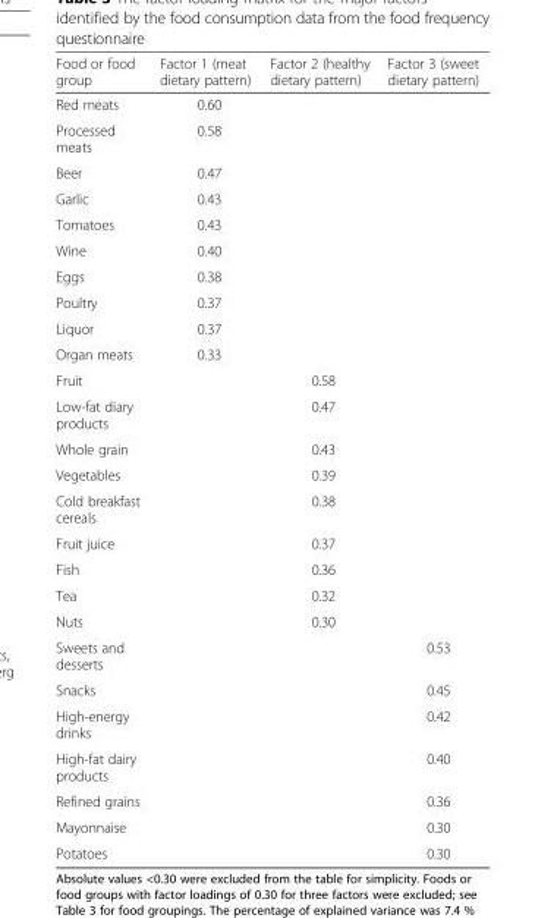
<table><thead><tr><td>Food or food group</td><td>Factor 1 (meat dietary pattern)</td><td>Factor 2 (healthy dietary pattern)</td><td>Factor 3 (sweet dietary pattern)</td></tr></thead><tbody><tr><td>Red meats</td><td>0.60</td><td></td><td></td></tr><tr><td>Processed meats</td><td>0.58</td><td></td><td></td></tr><tr><td>Beer</td><td>0.47</td><td></td><td></td></tr><tr><td>Garlic</td><td>0.43</td><td></td><td></td></tr><tr><td>Tomatoes</td><td>0.43</td><td></td><td></td></tr><tr><td>Wine</td><td>0.40</td><td></td><td></td></tr><tr><td>Eggs</td><td>0.38</td><td></td><td></td></tr><tr><td>Poultry</td><td>0.37</td><td></td><td></td></tr><tr><td>Liquor</td><td>0.37</td><td></td><td></td></tr><tr><td>Organ meats</td><td>0.33</td><td></td><td></td></tr><tr><td>Fruit</td><td></td><td>0.58</td><td></td></tr><tr><td>Low-fat diary products</td><td></td><td>0.47</td><td></td></tr><tr><td>Whole grain</td><td></td><td>0.43</td><td></td></tr><tr><td>Vegetables</td><td></td><td>0.39</td><td></td></tr><tr><td>Cold breakfast cereals</td><td></td><td>0.38</td><td></td></tr><tr><td>Fruit juice</td><td></td><td>0.37</td><td></td></tr><tr><td>Fish</td><td></td><td>0.36</td><td></td></tr><tr><td>Tea</td><td></td><td>0.32</td><td></td></tr><tr><td>Nuts</td><td></td><td>0.30</td><td></td></tr><tr><td>Sweets and desserts</td><td></td><td></td><td>0.53</td></tr><tr><td>Snacks</td><td></td><td></td><td>0.45</td></tr><tr><td>High-energy drinks</td><td></td><td></td><td>0.42</td></tr><tr><td>High-fat dairy products</td><td></td><td></td><td>0.40</td></tr><tr><td>Refined grains</td><td></td><td></td><td>0.36</td></tr><tr><td>Mayonnaise</td><td></td><td></td><td>0.30</td></tr><tr><td>Potatoes</td><td></td><td></td><td>0.30</td></tr></tbody></table>